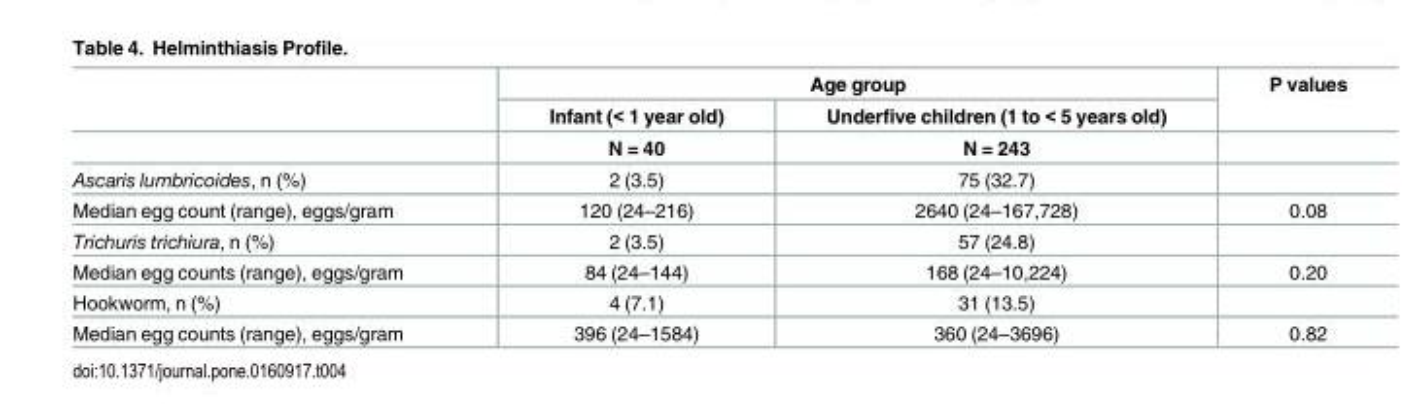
<table><thead><tr><td rowspan="3"></td><td colspan="2">Age group</td><td rowspan="3">P values</td></tr><tr><td rowspan="2">Infant (&lt; 1 year old) N = 40</td><td rowspan="2">Underfive children (1 to &lt; 5 years old) N = 243</td></tr><tr></tr></thead><tbody><tr><td>Ascaris lumbricoides, n (%)</td><td>2 (3.5)</td><td>75 (32.7)</td><td></td></tr><tr><td>Median egg count (range), eggs/gram</td><td>120 (24–216)</td><td>2640 (24–167,728)</td><td>0.08</td></tr><tr><td>Trichuris trichiura, n (%)</td><td>2 (3.5)</td><td>57 (24.8)</td><td></td></tr><tr><td>Median egg counts (range), eggs/gram</td><td>84 (24–144)</td><td>168 (24–10,224)</td><td>0.20</td></tr><tr><td>Hookworm, n (%)</td><td>4 (7.1)</td><td>31 (13.5)</td><td></td></tr><tr><td>Median egg counts (range), eggs/gram</td><td>396 (24–1584)</td><td>360 (24–3696)</td><td>0.82</td></tr></tbody></table>